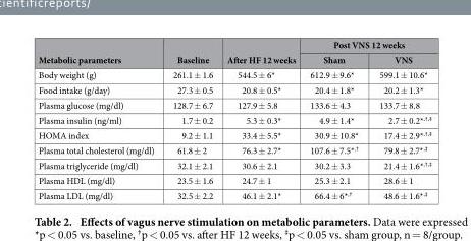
<table><thead><tr><td rowspan="2">Metabolic parameters</td><td rowspan="2">Baseline</td><td rowspan="2">After HF 12 weeks</td><td colspan="2">Post VNS 12 weeks</td></tr><tr><td>Sham</td><td>VNS</td></tr></thead><tbody><tr><td>Body weight (g)</td><td>261.1 ± 1.6</td><td>544.5 ± 6*</td><td>612.9 ± 9.6*</td><td>599.1 ± 10.6*</td></tr><tr><td>Food intake (g/day)</td><td>27.3 ± 0.5</td><td>20.8 ± 0.5*</td><td>20.4 ± 1.8*</td><td>20.2 ± 1.3*</td></tr><tr><td>Plasma glucose (mg/dl)</td><td>128.7 ± 6.7</td><td>127.9 ± 5.8</td><td>133.6 ± 4.3</td><td>133.7 ± 8.8</td></tr><tr><td>Plasma insulin (ng/ml)</td><td>1.7 ± 0.2</td><td>5.3 ± 0.3*</td><td>4.9 ± 1.4*</td><td>2.7 ± 0.2*<sup>,†,‡</sup></td></tr><tr><td>HOMA index</td><td>9.2 ± 1.1</td><td>33.4 ± 5.5*</td><td>30.9 ± 10.8*</td><td>17.4 ± 2.9*<sup>,†,‡</sup></td></tr><tr><td>Plasma total cholesterol (mg/dl)</td><td>61.8 ± 2</td><td>76.3 ± 2.7*</td><td>107.6 ± 7.5*<sup>,†</sup></td><td>79.8 ± 2.7*<sup>,‡</sup></td></tr><tr><td>Plasma triglyceride (mg/dl)</td><td>32.1 ± 2.1</td><td>30.6 ± 2.1</td><td>30.2 ± 3.3</td><td>21.4 ± 1.6*<sup>,†,‡</sup></td></tr><tr><td>Plasma HDL (mg/dl)</td><td>23.5 ± 1.6</td><td>24.7 ± 1</td><td>25.3 ± 2.1</td><td>28.6 ± 1</td></tr><tr><td>Plasma LDL (mg/dl)</td><td>32.5 ± 2.2</td><td>46.1 ± 2.1*</td><td>66.4 ± 6*<sup>,†</sup></td><td>48.6 ± 1.6*<sup>,‡</sup></td></tr></tbody></table>